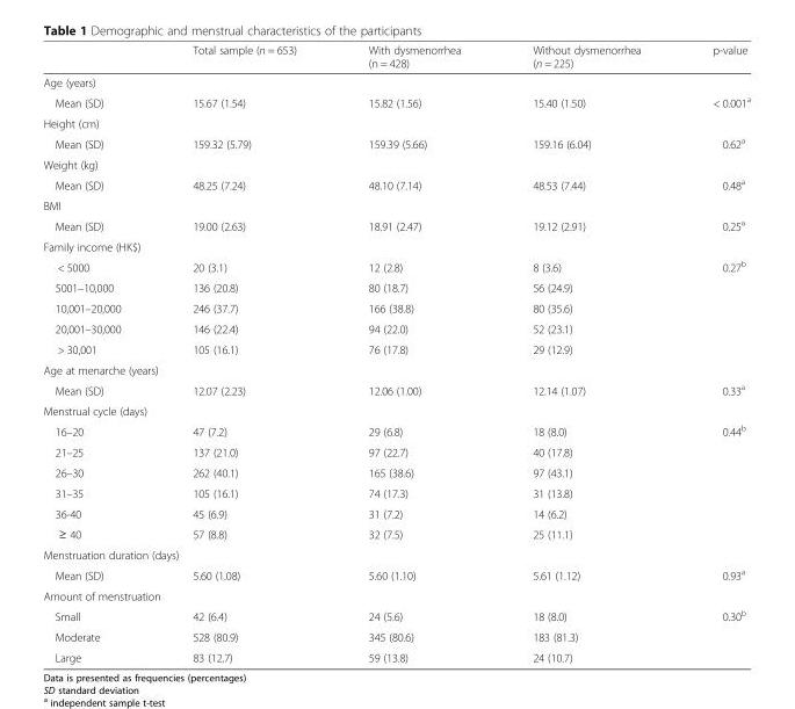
<table><thead><tr><td></td><td>Total sample (n = 653)</td><td>With dysmenorrhea (n = 428)</td><td>Without dysmenorrhea (n = 225)</td><td>p-value</td></tr></thead><tbody><tr><td colspan="5">Age (years)</td></tr><tr><td>Mean (SD)</td><td>15.67 (1.54)</td><td>15.82 (1.56)</td><td>15.40 (1.50)</td><td>&lt; 0.001<sup>a</sup></td></tr><tr><td colspan="5">Height (cm)</td></tr><tr><td>Mean (SD)</td><td>159.32 (5.79)</td><td>159.39 (5.66)</td><td>159.16 (6.04)</td><td>0.62<sup>a</sup></td></tr><tr><td colspan="5">Weight (kg)</td></tr><tr><td>Mean (SD)</td><td>48.25 (7.24)</td><td>48.10 (7.14)</td><td>48.53 (7.44)</td><td>0.48<sup>a</sup></td></tr><tr><td colspan="5">BMI</td></tr><tr><td>Mean (SD)</td><td>19.00 (2.63)</td><td>18.91 (2.47)</td><td>19.12 (2.91)</td><td>0.25<sup>a</sup></td></tr><tr><td colspan="5">Family income (HK$)</td></tr><tr><td>&lt; 5000</td><td>20 (3.1)</td><td>12 (2.8)</td><td>8 (3.6)</td><td>0.27<sup>b</sup></td></tr><tr><td>5001–10,000</td><td>136 (20.8)</td><td>80 (18.7)</td><td>56 (24.9)</td><td></td></tr><tr><td>10,001–20,000</td><td>246 (37.7)</td><td>166 (38.8)</td><td>80 (35.6)</td><td></td></tr><tr><td>20,001–30,000</td><td>146 (22.4)</td><td>94 (22.0)</td><td>52 (23.1)</td><td></td></tr><tr><td>&gt; 30,001</td><td>105 (16.1)</td><td>76 (17.8)</td><td>29 (12.9)</td><td></td></tr><tr><td colspan="5">Age at menarche (years)</td></tr><tr><td>Mean (SD)</td><td>12.07 (2.23)</td><td>12.06 (1.00)</td><td>12.14 (1.07)</td><td>0.33<sup>a</sup></td></tr><tr><td colspan="5">Menstrual cycle (days)</td></tr><tr><td>16–20</td><td>47 (7.2)</td><td>29 (6.8)</td><td>18 (8.0)</td><td>0.44<sup>b</sup></td></tr><tr><td>21–25</td><td>137 (21.0)</td><td>97 (22.7)</td><td>40 (17.8)</td><td></td></tr><tr><td>26–30</td><td>262 (40.1)</td><td>165 (38.6)</td><td>97 (43.1)</td><td></td></tr><tr><td>31–35</td><td>105 (16.1)</td><td>74 (17.3)</td><td>31 (13.8)</td><td></td></tr><tr><td>36-40</td><td>45 (6.9)</td><td>31 (7.2)</td><td>14 (6.2)</td><td></td></tr><tr><td>≥ 40</td><td>57 (8.8)</td><td>32 (7.5)</td><td>25 (11.1)</td><td></td></tr><tr><td colspan="5">Menstruation duration (days)</td></tr><tr><td>Mean (SD)</td><td>5.60 (1.08)</td><td>5.60 (1.10)</td><td>5.61 (1.12)</td><td>0.93<sup>a</sup></td></tr><tr><td colspan="5">Amount of menstruation</td></tr><tr><td>Small</td><td>42 (6.4)</td><td>24 (5.6)</td><td>18 (8.0)</td><td>0.30<sup>b</sup></td></tr><tr><td>Moderate</td><td>528 (80.9)</td><td>345 (80.6)</td><td>183 (81.3)</td><td></td></tr><tr><td>Large</td><td>83 (12.7)</td><td>59 (13.8)</td><td>24 (10.7)</td><td></td></tr></tbody></table>